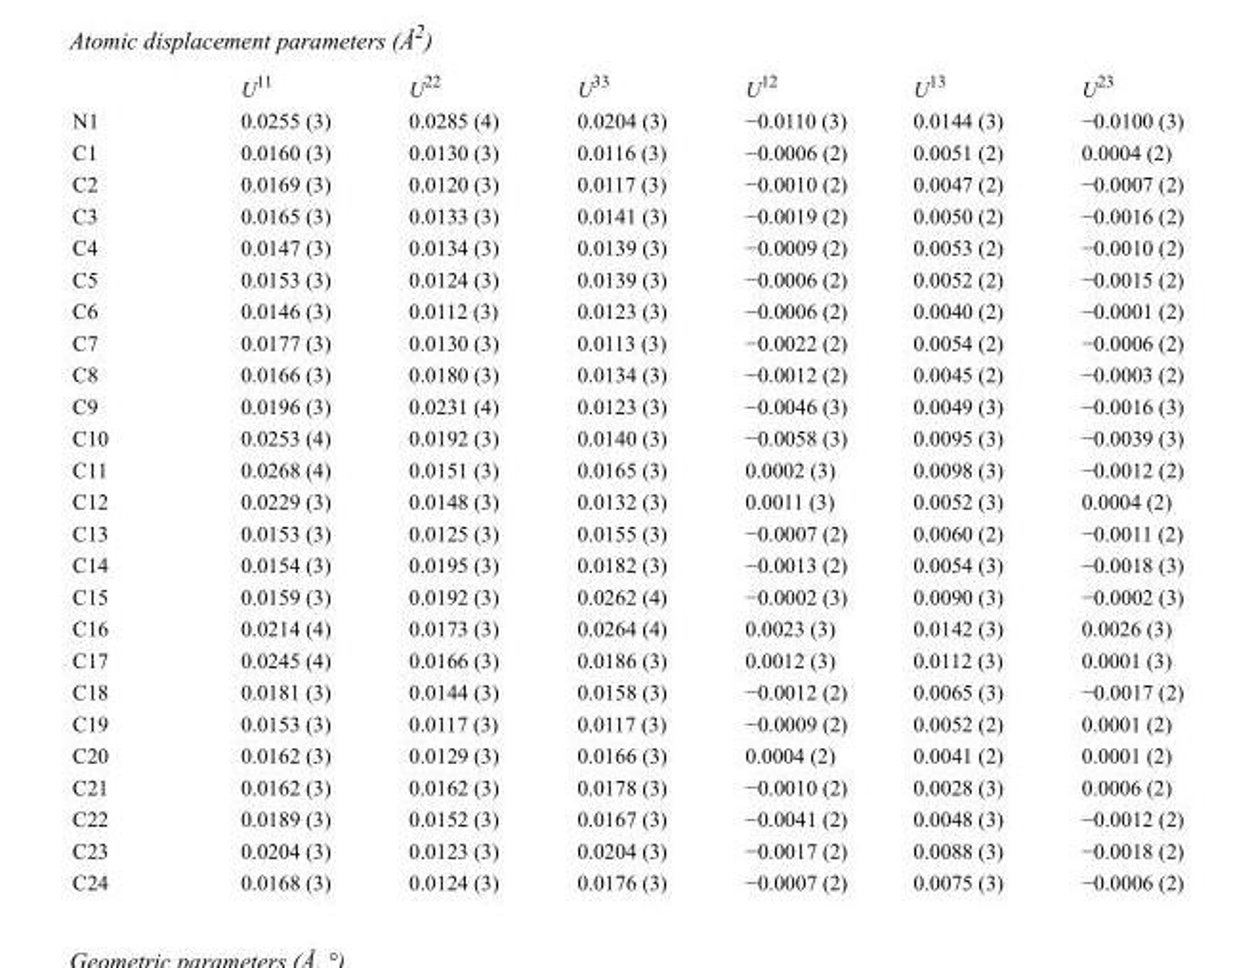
<table><thead><tr><td></td><td>U<sup>11</sup></td><td>U<sup>22</sup></td><td>U<sup>33</sup></td><td>U<sup>12</sup></td><td>U<sup>13</sup></td><td>U<sup>23</sup></td></tr></thead><tbody><tr><td>N1</td><td>0.0255 (3)</td><td>0.0285 (4)</td><td>0.0204 (3)</td><td>−0.0110 (3)</td><td>0.0144 (3)</td><td>−0.0100 (3)</td></tr><tr><td>C1</td><td>0.0160 (3)</td><td>0.0130 (3)</td><td>0.0116 (3)</td><td>−0.0006 (2)</td><td>0.0051 (2)</td><td>0.0004 (2)</td></tr><tr><td>C2</td><td>0.0169 (3)</td><td>0.0120 (3)</td><td>0.0117 (3)</td><td>−0.0010 (2)</td><td>0.0047 (2)</td><td>−0.0007 (2)</td></tr><tr><td>C3</td><td>0.0165 (3)</td><td>0.0133 (3)</td><td>0.0141 (3)</td><td>−0.0019 (2)</td><td>0.0050 (2)</td><td>−0.0016 (2)</td></tr><tr><td>C4</td><td>0.0147 (3)</td><td>0.0134 (3)</td><td>0.0139 (3)</td><td>−0.0009 (2)</td><td>0.0053 (2)</td><td>−0.0010 (2)</td></tr><tr><td>C5</td><td>0.0153 (3)</td><td>0.0124 (3)</td><td>0.0139 (3)</td><td>−0.0006 (2)</td><td>0.0052 (2)</td><td>−0.0015 (2)</td></tr><tr><td>C6</td><td>0.0146 (3)</td><td>0.0112 (3)</td><td>0.0123 (3)</td><td>−0.0006 (2)</td><td>0.0040 (2)</td><td>−0.0001 (2)</td></tr><tr><td>C7</td><td>0.0177 (3)</td><td>0.0130 (3)</td><td>0.0113 (3)</td><td>−0.0022 (2)</td><td>0.0054 (2)</td><td>−0.0006 (2)</td></tr><tr><td>C8</td><td>0.0166 (3)</td><td>0.0180 (3)</td><td>0.0134 (3)</td><td>−0.0012 (2)</td><td>0.0045 (2)</td><td>−0.0003 (2)</td></tr><tr><td>C9</td><td>0.0196 (3)</td><td>0.0231 (4)</td><td>0.0123 (3)</td><td>−0.0046 (3)</td><td>0.0049 (3)</td><td>−0.0016 (3)</td></tr><tr><td>C10</td><td>0.0253 (4)</td><td>0.0192 (3)</td><td>0.0140 (3)</td><td>−0.0058 (3)</td><td>0.0095 (3)</td><td>−0.0039 (3)</td></tr><tr><td>C11</td><td>0.0268 (4)</td><td>0.0151 (3)</td><td>0.0165 (3)</td><td>0.0002 (3)</td><td>0.0098 (3)</td><td>−0.0012 (2)</td></tr><tr><td>C12</td><td>0.0229 (3)</td><td>0.0148 (3)</td><td>0.0132 (3)</td><td>0.0011 (3)</td><td>0.0052 (3)</td><td>0.0004 (2)</td></tr><tr><td>C13</td><td>0.0153 (3)</td><td>0.0125 (3)</td><td>0.0155 (3)</td><td>−0.0007 (2)</td><td>0.0060 (2)</td><td>−0.0011 (2)</td></tr><tr><td>C14</td><td>0.0154 (3)</td><td>0.0195 (3)</td><td>0.0182 (3)</td><td>−0.0013 (2)</td><td>0.0054 (3)</td><td>−0.0018 (3)</td></tr><tr><td>C15</td><td>0.0159 (3)</td><td>0.0192 (3)</td><td>0.0262 (4)</td><td>−0.0002 (3)</td><td>0.0090 (3)</td><td>−0.0002 (3)</td></tr><tr><td>C16</td><td>0.0214 (4)</td><td>0.0173 (3)</td><td>0.0264 (4)</td><td>0.0023 (3)</td><td>0.0142 (3)</td><td>0.0026 (3)</td></tr><tr><td>C17</td><td>0.0245 (4)</td><td>0.0166 (3)</td><td>0.0186 (3)</td><td>0.0012 (3)</td><td>0.0112 (3)</td><td>0.0001 (3)</td></tr><tr><td>C18</td><td>0.0181 (3)</td><td>0.0144 (3)</td><td>0.0158 (3)</td><td>−0.0012 (2)</td><td>0.0065 (3)</td><td>−0.0017 (2)</td></tr><tr><td>C19</td><td>0.0153 (3)</td><td>0.0117 (3)</td><td>0.0117 (3)</td><td>−0.0009 (2)</td><td>0.0052 (2)</td><td>0.0001 (2)</td></tr><tr><td>C20</td><td>0.0162 (3)</td><td>0.0129 (3)</td><td>0.0166 (3)</td><td>0.0004 (2)</td><td>0.0041 (2)</td><td>0.0001 (2)</td></tr><tr><td>C21</td><td>0.0162 (3)</td><td>0.0162 (3)</td><td>0.0178 (3)</td><td>−0.0010 (2)</td><td>0.0028 (3)</td><td>0.0006 (2)</td></tr><tr><td>C22</td><td>0.0189 (3)</td><td>0.0152 (3)</td><td>0.0167 (3)</td><td>−0.0041 (2)</td><td>0.0048 (3)</td><td>−0.0012 (2)</td></tr><tr><td>C23</td><td>0.0204 (3)</td><td>0.0123 (3)</td><td>0.0204 (3)</td><td>−0.0017 (2)</td><td>0.0088 (3)</td><td>−0.0018 (2)</td></tr><tr><td>C24</td><td>0.0168 (3)</td><td>0.0124 (3)</td><td>0.0176 (3)</td><td>−0.0007 (2)</td><td>0.0075 (3)</td><td>−0.0006 (2)</td></tr></tbody></table>